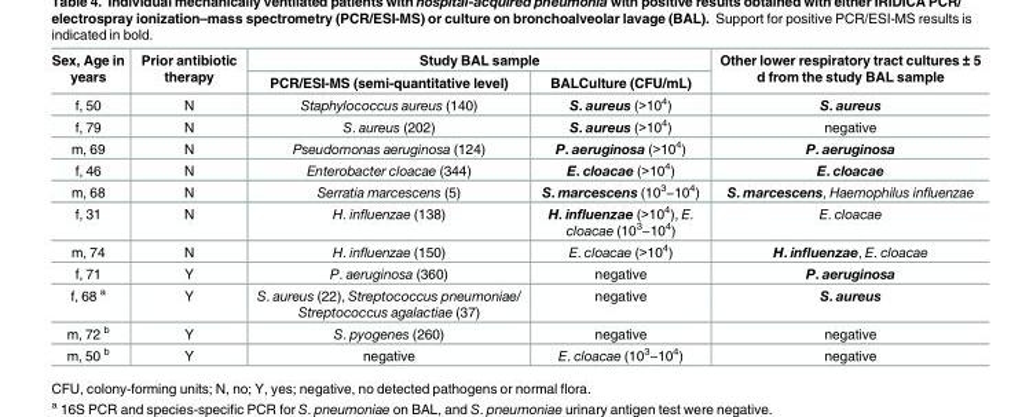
<table><thead><tr><td rowspan="2">Sex, Age in years</td><td rowspan="2">Prior antibiotic therapy</td><td colspan="2">Study BAL sample</td><td rowspan="2">Other lower respiratory tract cultures ± 5 d from the study BAL sample</td></tr><tr><td>PCR/ESI-MS (semi-quantitative level)</td><td>BALCulture (CFU/mL)</td></tr></thead><tbody><tr><td>f, 50</td><td>N</td><td>Staphylococcus aureus (140)</td><td>S. aureus (&gt;10<sup>4</sup>)</td><td>S. aureus</td></tr><tr><td>f, 79</td><td>N</td><td>S. aureus (202)</td><td>S. aureus (&gt;10<sup>4</sup>)</td><td>negative</td></tr><tr><td>m, 69</td><td>N</td><td>Pseudomonas aeruginosa (124)</td><td>P. aeruginosa (&gt;10<sup>4</sup>)</td><td>P. aeruginosa</td></tr><tr><td>f, 46</td><td>N</td><td>Enterobacter cloacae (344)</td><td>E. cloacae (&gt;10<sup>4</sup>)</td><td>E. cloacae</td></tr><tr><td>m, 68</td><td>N</td><td>Serratia marcescens (5)</td><td>S. marcescens (10<sup>3</sup>−10<sup>4</sup>)</td><td>S. marcescens, Haemophilus influenzae</td></tr><tr><td>f, 31</td><td>N</td><td>H. influenzae (138)</td><td>H. influenzae (&gt;10<sup>4</sup>), E. cloacae (10<sup>3</sup>−10<sup>4</sup>)</td><td>E. cloacae</td></tr><tr><td>m, 74</td><td>N</td><td>H. influenzae (150)</td><td>E. cloacae (&gt;10<sup>4</sup>)</td><td>H. influenzae, E. cloacae</td></tr><tr><td>f, 71</td><td>Y</td><td>P. aeruginosa (360)</td><td>negative</td><td>P. aeruginosa</td></tr><tr><td>f, 68 <sup>a</sup></td><td>Y</td><td>S. aureus (22), Streptococcus pneumoniae/ Streptococcus agalactiae (37)</td><td>negative</td><td>S. aureus</td></tr><tr><td>m, 72 <sup>b</sup></td><td>Y</td><td>S. pyogenes (260)</td><td>negative</td><td>negative</td></tr><tr><td>m, 50 <sup>b</sup></td><td>Y</td><td>negative</td><td>E. cloacae (10<sup>3</sup>−10<sup>4</sup>)</td><td>negative</td></tr></tbody></table>